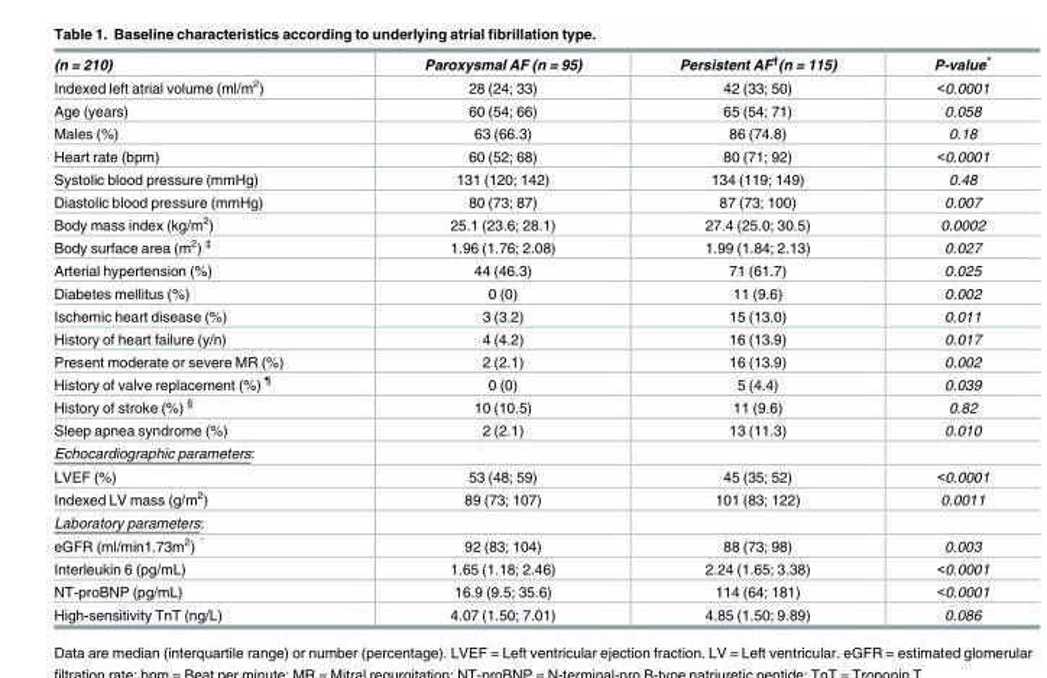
<table><thead><tr><td>(n = 210)</td><td>Paroxysmal AF (n = 95)</td><td>Persistent AF<sup>†</sup>(n = 115)</td><td>P-value*</td></tr></thead><tbody><tr><td>Indexed left atrial volume (ml/m<sup>2</sup>)</td><td>28 (24; 33)</td><td>42 (33; 50)</td><td>&lt;0.0001</td></tr><tr><td>Age (years)</td><td>60 (54; 66)</td><td>65 (54; 71)</td><td>0.058</td></tr><tr><td>Males (%)</td><td>63 (66.3)</td><td>86 (74.8)</td><td>0.18</td></tr><tr><td>Heart rate (bpm)</td><td>60 (52; 68)</td><td>80 (71; 92)</td><td>&lt;0.0001</td></tr><tr><td>Systolic blood pressure (mmHg)</td><td>131 (120; 142)</td><td>134 (119; 149)</td><td>0.48</td></tr><tr><td>Diastolic blood pressure (mmHg)</td><td>80 (73; 87)</td><td>87 (73; 100)</td><td>0.007</td></tr><tr><td>Body mass index (kg/m<sup>2</sup>)</td><td>25.1 (23.6; 28.1)</td><td>27.4 (25.0; 30.5)</td><td>0.0002</td></tr><tr><td>Body surface area (m<sup>2</sup>) <sup>‡</sup></td><td>1.96 (1.76; 2.08)</td><td>1.99 (1.84; 2.13)</td><td>0.027</td></tr><tr><td>Arterial hypertension (%)</td><td>44 (46.3)</td><td>71 (61.7)</td><td>0.025</td></tr><tr><td>Diabetes mellitus (%)</td><td>0 (0)</td><td>11 (9.6)</td><td>0.002</td></tr><tr><td>Ischemic heart disease (%)</td><td>3 (3.2)</td><td>15 (13.0)</td><td>0.011</td></tr><tr><td>History of heart failure (y/n)</td><td>4 (4.2)</td><td>16 (13.9)</td><td>0.017</td></tr><tr><td>Present moderate or severe MR (%)</td><td>2 (2.1)</td><td>16 (13.9)</td><td>0.002</td></tr><tr><td>History of valve replacement (%) <sup>¶</sup></td><td>0 (0)</td><td>5 (4.4)</td><td>0.039</td></tr><tr><td>History of stroke (%) <sup>§</sup></td><td>10 (10.5)</td><td>11 (9.6)</td><td>0.82</td></tr><tr><td>Sleep apnea syndrome (%)</td><td>2 (2.1)</td><td>13 (11.3)</td><td>0.010</td></tr><tr><td colspan="4">Echocardiographic parameters:</td></tr><tr><td>LVEF (%)</td><td>53 (48; 59)</td><td>45 (35; 52)</td><td>&lt;0.0001</td></tr><tr><td>Indexed LV mass (g/m<sup>2</sup>)</td><td>89 (73; 107)</td><td>101 (83; 122)</td><td>0.0011</td></tr><tr><td colspan="4">Laboratory parameters:</td></tr><tr><td>eGFR (ml/min1.73m2) ˚</td><td>92 (83; 104)</td><td>88 (73; 98)</td><td>0.003</td></tr><tr><td>Interleukin 6 (pg/mL)</td><td>1.65 (1.18; 2.46)</td><td>2.24 (1.65; 3.38)</td><td>&lt;0.0001</td></tr><tr><td>NT-proBNP (pg/mL)</td><td>16.9 (9.5; 35.6)</td><td>114 (64; 181)</td><td>&lt;0.0001</td></tr><tr><td>High-sensitivity TnT (ng/L)</td><td>4.07 (1.50; 7.01)</td><td>4.85 (1.50; 9.89)</td><td>0.086</td></tr></tbody></table>